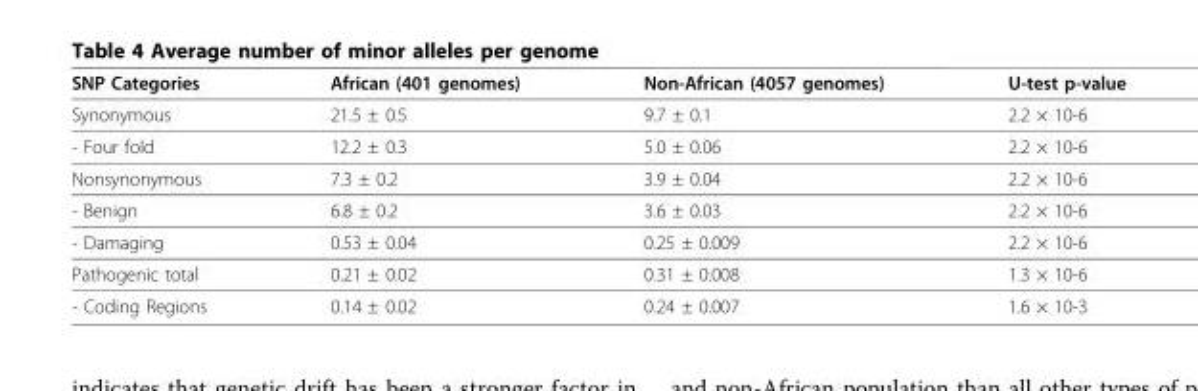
<table><thead><tr><td>SNP Categories</td><td>African (401 genomes)</td><td>Non-African (4057 genomes)</td><td>U-test p-value</td></tr></thead><tbody><tr><td>Synonymous</td><td>21.5 ± 0.5</td><td>9.7 ± 0.1</td><td>2.2 × 10-6</td></tr><tr><td>- Four fold</td><td>12.2 ± 0.3</td><td>5.0 ± 0.06</td><td>2.2 × 10-6</td></tr><tr><td>Nonsynonymous</td><td>7.3 ± 0.2</td><td>3.9 ± 0.04</td><td>2.2 × 10-6</td></tr><tr><td>- Benign</td><td>6.8 ± 0.2</td><td>3.6 ± 0.03</td><td>2.2 × 10-6</td></tr><tr><td>- Damaging</td><td>0.53 ± 0.04</td><td>0.25 ± 0.009</td><td>2.2 × 10-6</td></tr><tr><td>Pathogenic total</td><td>0.21 ± 0.02</td><td>0.31 ± 0.008</td><td>1.3 × 10-6</td></tr><tr><td>- Coding Regions</td><td>0.14 ± 0.02</td><td>0.24 ± 0.007</td><td>1.6 × 10-3</td></tr></tbody></table>